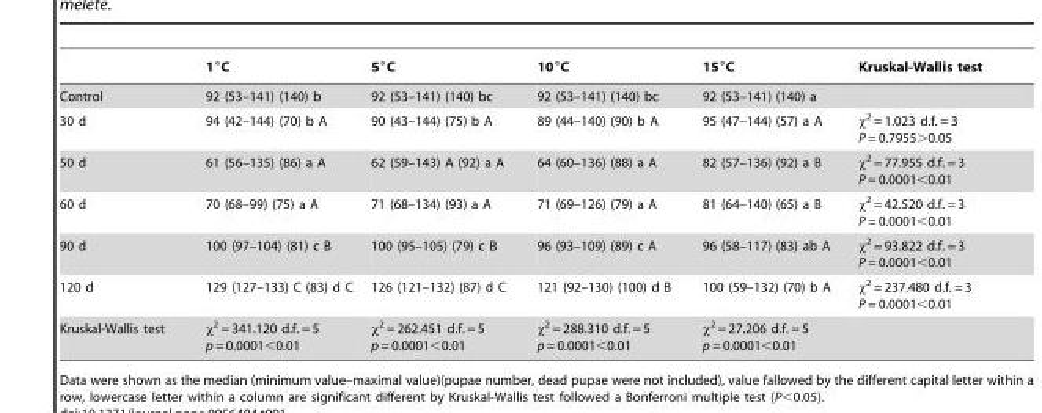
<table><thead><tr><td></td><td>1°C</td><td>5°C</td><td>10°C</td><td>15°C</td><td>Kruskal-Wallis test</td></tr></thead><tbody><tr><td>Control</td><td>92 (53–141) (140) b</td><td>92 (53–141) (140) bc</td><td>92 (53–141) (140) bc</td><td>92 (53–141) (140) a</td><td></td></tr><tr><td>30 d</td><td>94 (42–144) (70) b A</td><td>90 (43–144) (75) b A</td><td>89 (44–140) (90) b A</td><td>95 (47–144) (57) a A</td><td>χ<sup>2</sup> = 1.023 d.f. = 3 P = 0.7955&gt;0.05</td></tr><tr><td>50 d</td><td>61 (56–135) (86) a A</td><td>62 (59–143) A (92) a A</td><td>64 (60–136) (88) a A</td><td>82 (57–136) (92) a B</td><td>χ<sup>2</sup> = 77.955 d.f. = 3 P = 0.0001&lt;0.01</td></tr><tr><td>60 d</td><td>70 (68–99) (75) a A</td><td>71 (68–134) (93) a A</td><td>71 (69–126) (79) a A</td><td>81 (64–140) (65) a B</td><td>χ<sup>2</sup> = 42.520 d.f. = 3 P = 0.0001&lt;0.01</td></tr><tr><td>90 d</td><td>100 (97–104) (81) c B</td><td>100 (95–105) (79) c B</td><td>96 (93–109) (89) c A</td><td>96 (58–117) (83) ab A</td><td>χ<sup>2</sup> = 93.822 d.f. = 3 P = 0.0001&lt;0.01</td></tr><tr><td>120 d</td><td>129 (127–133) C (83) d C</td><td>126 (121–132) (87) d C</td><td>121 (92–130) (100) d B</td><td>100 (59–132) (70) b A</td><td>χ<sup>2</sup> = 237.480 d.f. = 3 P = 0.0001&lt;0.01</td></tr><tr><td>Kruskal-Wallis test</td><td>χ<sup>2</sup> = 341.120 d.f. = 5 p = 0.0001&lt;0.01</td><td>χ<sup>2</sup> = 262.451 d.f. = 5 p = 0.0001&lt;0.01</td><td>χ<sup>2</sup> = 288.310 d.f. = 5 p = 0.0001&lt;0.01</td><td>χ<sup>2</sup> = 27.206 d.f. = 5 p = 0.0001&lt;0.01</td><td></td></tr></tbody></table>